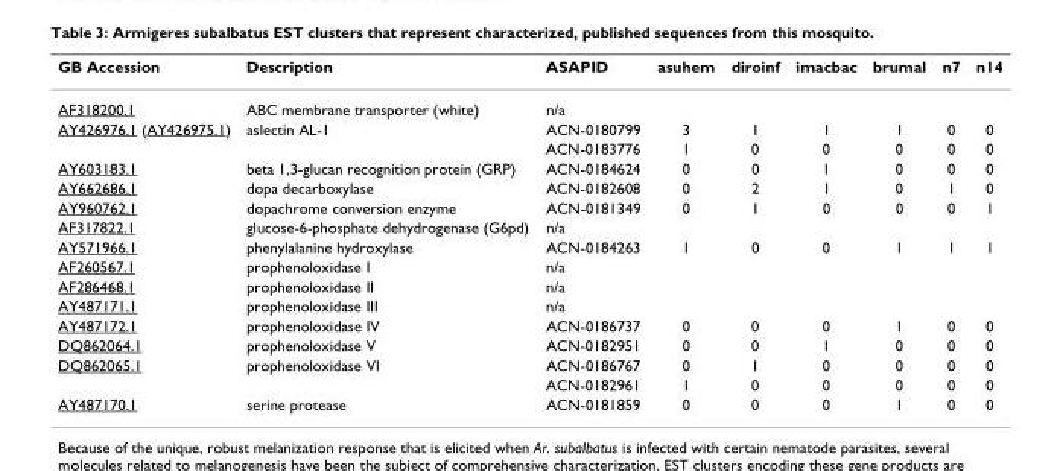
<table><thead><tr><td>GB Accession</td><td>Description</td><td>ASAPID</td><td>asuhem</td><td>diroinf</td><td>imacbac</td><td>brumal</td><td>n7</td><td>n14</td></tr></thead><tbody><tr><td>AF318200.1</td><td>ABC membrane transporter (white)</td><td>n/a</td><td></td><td></td><td></td><td></td><td></td><td></td></tr><tr><td rowspan="2">AY426976.1 (AY426975.1)</td><td>aslectin AL-1</td><td>ACN-0180799</td><td>3</td><td>1</td><td>1</td><td>1</td><td>0</td><td>0</td></tr><tr><td></td><td>ACN-0183776</td><td>1</td><td>0</td><td>0</td><td>0</td><td>0</td><td>0</td></tr><tr><td>AY603183.1</td><td>beta 1,3-glucan recognition protein (GRP)</td><td>ACN-0184624</td><td>0</td><td>0</td><td>1</td><td>0</td><td>0</td><td>0</td></tr><tr><td>AY662686.1</td><td>dopa decarboxylase</td><td>ACN-0182608</td><td>0</td><td>2</td><td>1</td><td>0</td><td>1</td><td>0</td></tr><tr><td>AY960762.1</td><td>dopachrome conversion enzyme</td><td>ACN-0181349</td><td>0</td><td>1</td><td>0</td><td>0</td><td>0</td><td>1</td></tr><tr><td>AF317822.1</td><td>glucose-6-phosphate dehydrogenase (G6pd)</td><td>n/a</td><td></td><td></td><td></td><td></td><td></td><td></td></tr><tr><td>AY571966.1</td><td>phenylalanine hydroxylase</td><td>ACN-0184263</td><td>1</td><td>0</td><td>0</td><td>1</td><td>1</td><td>1</td></tr><tr><td>AF260567.1</td><td>prophenoloxidase I</td><td>n/a</td><td></td><td></td><td></td><td></td><td></td><td></td></tr><tr><td>AF286468.1</td><td>prophenoloxidase II</td><td>n/a</td><td></td><td></td><td></td><td></td><td></td><td></td></tr><tr><td>AY487171.1</td><td>prophenoloxidase III</td><td>n/a</td><td></td><td></td><td></td><td></td><td></td><td></td></tr><tr><td>AY487172.1</td><td>prophenoloxidase IV</td><td>ACN-0186737</td><td>0</td><td>0</td><td>0</td><td>1</td><td>0</td><td>0</td></tr><tr><td>DQ862064.1</td><td>prophenoloxidase V</td><td>ACN-0182951</td><td>0</td><td>0</td><td>1</td><td>0</td><td>0</td><td>0</td></tr><tr><td rowspan="2">DQ862065.1</td><td>prophenoloxidase VI</td><td>ACN-0186767</td><td>0</td><td>1</td><td>0</td><td>0</td><td>0</td><td>0</td></tr><tr><td></td><td>ACN-0182961</td><td>1</td><td>0</td><td>0</td><td>0</td><td>0</td><td>0</td></tr><tr><td>AY487170.1</td><td>serine protease</td><td>ACN-0181859</td><td>0</td><td>0</td><td>0</td><td>1</td><td>0</td><td>0</td></tr></tbody></table>